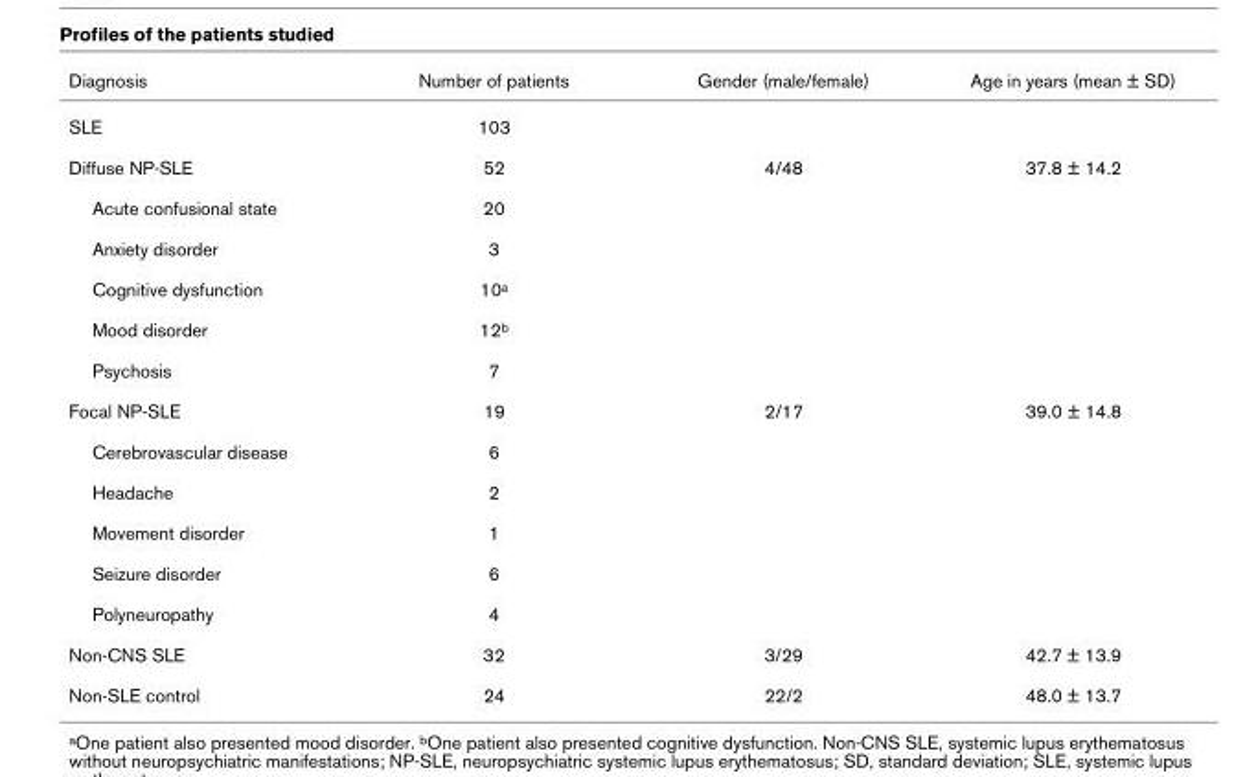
<table><thead><tr><td>Diagnosis</td><td>Number of patients</td><td>Gender (male/female)</td><td>Age in years (mean ± SD)</td></tr></thead><tbody><tr><td>SLE</td><td>103</td><td></td><td></td></tr><tr><td>Diffuse NP-SLE</td><td>52</td><td>4/48</td><td>37.8 ± 14.2</td></tr><tr><td>Acute confusional state</td><td>20</td><td></td><td></td></tr><tr><td>Anxiety disorder</td><td>3</td><td></td><td></td></tr><tr><td>Cognitive dysfunction</td><td>10<sup>a</sup></td><td></td><td></td></tr><tr><td>Mood disorder</td><td>12<sup>b</sup></td><td></td><td></td></tr><tr><td>Psychosis</td><td>7</td><td></td><td></td></tr><tr><td>Focal NP-SLE</td><td>19</td><td>2/17</td><td>39.0 ± 14.8</td></tr><tr><td>Cerebrovascular disease</td><td>6</td><td></td><td></td></tr><tr><td>Headache</td><td>2</td><td></td><td></td></tr><tr><td>Movement disorder</td><td>1</td><td></td><td></td></tr><tr><td>Seizure disorder</td><td>6</td><td></td><td></td></tr><tr><td>Polyneuropathy</td><td>4</td><td></td><td></td></tr><tr><td>Non-CNS SLE</td><td>32</td><td>3/29</td><td>42.7 ± 13.9</td></tr><tr><td>Non-SLE control</td><td>24</td><td>22/2</td><td>48.0 ± 13.7</td></tr></tbody></table>